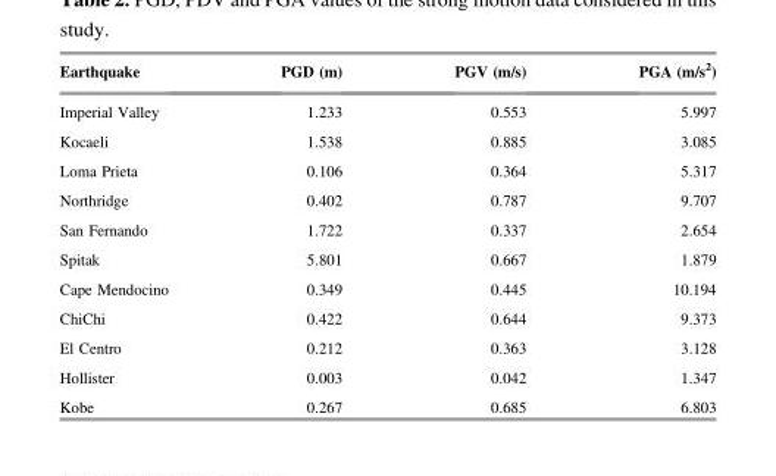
<table><thead><tr><td>Earthquake</td><td>PGD (m)</td><td>PGV (m/s)</td><td>PGA (m/s<sup>2</sup>)</td></tr></thead><tbody><tr><td>Imperial Valley</td><td>1.233</td><td>0.553</td><td>5.997</td></tr><tr><td>Kocaeli</td><td>1.538</td><td>0.885</td><td>3.085</td></tr><tr><td>Loma Prieta</td><td>0.106</td><td>0.364</td><td>5.317</td></tr><tr><td>Northridge</td><td>0.402</td><td>0.787</td><td>9.707</td></tr><tr><td>San Fernando</td><td>1.722</td><td>0.337</td><td>2.654</td></tr><tr><td>Spitak</td><td>5.801</td><td>0.667</td><td>1.879</td></tr><tr><td>Cape Mendocino</td><td>0.349</td><td>0.445</td><td>10.194</td></tr><tr><td>ChiChi</td><td>0.422</td><td>0.644</td><td>9.373</td></tr><tr><td>El Centro</td><td>0.212</td><td>0.363</td><td>3.128</td></tr><tr><td>Hollister</td><td>0.003</td><td>0.042</td><td>1.347</td></tr><tr><td>Kobe</td><td>0.267</td><td>0.685</td><td>6.803</td></tr></tbody></table>